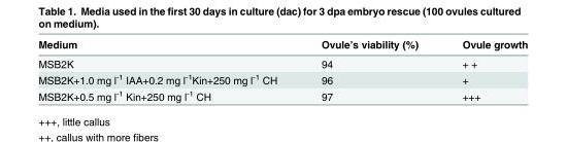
<table><thead><tr><td>Medium</td><td>Ovule’s viability (%)</td><td>Ovule growth</td></tr></thead><tbody><tr><td>MSB2K</td><td>94</td><td>+ +</td></tr><tr><td>MSB2K+1.0 mg l<sup>-1</sup> IAA+0.2 mg l<sup>-1</sup>Kin+250 mg l<sup>-1</sup> CH</td><td>96</td><td>+</td></tr><tr><td>MSB2K+0.5 mg l<sup>-1</sup> Kin+250 mg l<sup>-1</sup> CH</td><td>97</td><td>+++</td></tr></tbody></table>